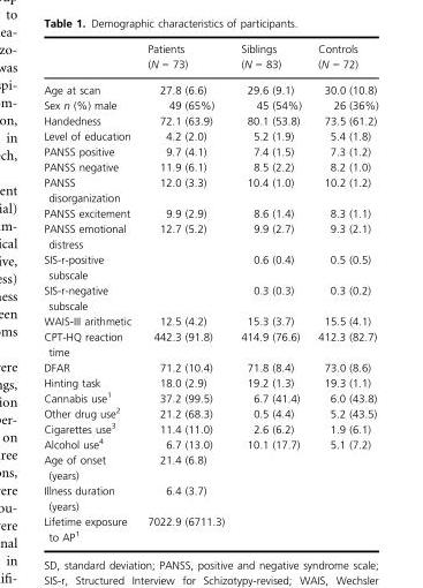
<table><thead><tr><td></td><td>Patients (N = 73)</td><td>Siblings (N = 83)</td><td>Controls (N = 72)</td></tr></thead><tbody><tr><td>Age at scan</td><td>27.8 (6.6)</td><td>29.6 (9.1)</td><td>30.0 (10.8)</td></tr><tr><td>Sex n (%) male</td><td>49 (65%)</td><td>45 (54%)</td><td>26 (36%)</td></tr><tr><td>Handedness</td><td>72.1 (63.9)</td><td>80.1 (53.8)</td><td>73.5 (61.2)</td></tr><tr><td>Level of education</td><td>4.2 (2.0)</td><td>5.2 (1.9)</td><td>5.4 (1.8)</td></tr><tr><td>PANSS positive</td><td>9.7 (4.1)</td><td>7.4 (1.5)</td><td>7.3 (1.2)</td></tr><tr><td>PANSS negative</td><td>11.9 (6.1)</td><td>8.5 (2.2)</td><td>8.2 (1.0)</td></tr><tr><td>PANSS disorganization</td><td>12.0 (3.3)</td><td>10.4 (1.0)</td><td>10.2 (1.2)</td></tr><tr><td>PANSS excitement</td><td>9.9 (2.9)</td><td>8.6 (1.4)</td><td>8.3 (1.1)</td></tr><tr><td>PANSS emotional distress</td><td>12.7 (5.2)</td><td>9.9 (2.7)</td><td>9.3 (2.1)</td></tr><tr><td>SIS-r-positive subscale</td><td></td><td>0.6 (0.4)</td><td>0.5 (0.5)</td></tr><tr><td>SIS-r-negative subscale</td><td></td><td>0.3 (0.3)</td><td>0.3 (0.2)</td></tr><tr><td>WAIS-III arithmetic</td><td>12.5 (4.2)</td><td>15.3 (3.7)</td><td>15.5 (4.1)</td></tr><tr><td>CPT-HQ reaction time</td><td>442.3 (91.8)</td><td>414.9 (76.6)</td><td>412.3 (82.7)</td></tr><tr><td>DFAR</td><td>71.2 (10.4)</td><td>71.8 (8.4)</td><td>73.0 (8.6)</td></tr><tr><td>Hinting task</td><td>18.0 (2.9)</td><td>19.2 (1.3)</td><td>19.3 (1.1)</td></tr><tr><td>Cannabis use1</td><td>37.2 (99.5)</td><td>6.7 (41.4)</td><td>6.0 (43.8)</td></tr><tr><td>Other drug use2</td><td>21.2 (68.3)</td><td>0.5 (4.4)</td><td>5.2 (43.5)</td></tr><tr><td>Cigarettes use3</td><td>11.4 (11.0)</td><td>2.6 (6.2)</td><td>1.9 (6.1)</td></tr><tr><td>Alcohol use4</td><td>6.7 (13.0)</td><td>10.1 (17.7)</td><td>5.1 (7.2)</td></tr><tr><td>Age of onset (years)</td><td>21.4 (6.8)</td><td></td><td></td></tr><tr><td>Illness duration (years)</td><td>6.4 (3.7)</td><td></td><td></td></tr><tr><td>Lifetime exposure to AP1</td><td>7022.9 (6711.3)</td><td></td><td></td></tr></tbody></table>